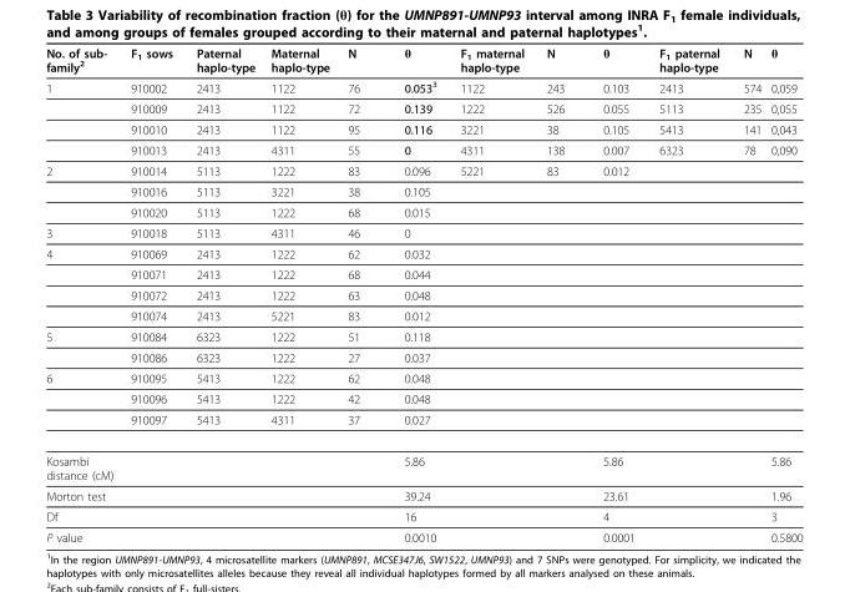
<table><thead><tr><td>No. of sub- family2</td><td>F1 sows</td><td>Paternal haplo-type</td><td>Maternal haplo-type</td><td>N</td><td>θ</td><td>F1 maternal haplo-type</td><td>N</td><td>θ</td><td>F1 paternal haplo-type</td><td>N</td><td>θ</td></tr></thead><tbody><tr><td rowspan="4">1</td><td>910002</td><td>2413</td><td>1122</td><td>76</td><td>0.0533</td><td>1122</td><td>243</td><td>0.103</td><td>2413</td><td>574</td><td>0,059</td></tr><tr><td>910009</td><td>2413</td><td>1122</td><td>72</td><td>0.139</td><td>1222</td><td>526</td><td>0.055</td><td>5113</td><td>235</td><td>0,055</td></tr><tr><td>910010</td><td>2413</td><td>1122</td><td>95</td><td>0.116</td><td>3221</td><td>38</td><td>0.105</td><td>5413</td><td>141</td><td>0,043</td></tr><tr><td>910013</td><td>2413</td><td>4311</td><td>55</td><td>0</td><td>4311</td><td>138</td><td>0.007</td><td>6323</td><td>78</td><td>0,090</td></tr><tr><td rowspan="3">2</td><td>910014</td><td>5113</td><td>1222</td><td>83</td><td>0.096</td><td>5221</td><td>83</td><td>0.012</td><td></td><td></td><td></td></tr><tr><td>910016</td><td>5113</td><td>3221</td><td>38</td><td>0.105</td><td></td><td></td><td></td><td></td><td></td><td></td></tr><tr><td>910020</td><td>5113</td><td>1222</td><td>68</td><td>0.015</td><td></td><td></td><td></td><td></td><td></td><td></td></tr><tr><td>3</td><td>910018</td><td>5113</td><td>4311</td><td>46</td><td>0</td><td></td><td></td><td></td><td></td><td></td><td></td></tr><tr><td rowspan="4">4</td><td>910069</td><td>2413</td><td>1222</td><td>62</td><td>0.032</td><td></td><td></td><td></td><td></td><td></td><td></td></tr><tr><td>910071</td><td>2413</td><td>1222</td><td>68</td><td>0.044</td><td></td><td></td><td></td><td></td><td></td><td></td></tr><tr><td>910072</td><td>2413</td><td>1222</td><td>63</td><td>0.048</td><td></td><td></td><td></td><td></td><td></td><td></td></tr><tr><td>910074</td><td>2413</td><td>5221</td><td>83</td><td>0.012</td><td></td><td></td><td></td><td></td><td></td><td></td></tr><tr><td rowspan="2">5</td><td>910084</td><td>6323</td><td>1222</td><td>51</td><td>0.118</td><td></td><td></td><td></td><td></td><td></td><td></td></tr><tr><td>910086</td><td>6323</td><td>1222</td><td>27</td><td>0.037</td><td></td><td></td><td></td><td></td><td></td><td></td></tr><tr><td rowspan="3">6</td><td>910095</td><td>5413</td><td>1222</td><td>62</td><td>0.048</td><td></td><td></td><td></td><td></td><td></td><td></td></tr><tr><td>910096</td><td>5413</td><td>1222</td><td>42</td><td>0.048</td><td></td><td></td><td></td><td></td><td></td><td></td></tr><tr><td>910097</td><td>5413</td><td>4311</td><td>37</td><td>0.027</td><td></td><td></td><td></td><td></td><td></td><td></td></tr><tr><td>Kosambi distance (cM)</td><td></td><td></td><td></td><td></td><td>5.86</td><td></td><td></td><td>5.86</td><td></td><td></td><td>5.86</td></tr><tr><td>Morton test</td><td></td><td></td><td></td><td></td><td>39.24</td><td></td><td></td><td>23.61</td><td></td><td></td><td>1.96</td></tr><tr><td>Df</td><td></td><td></td><td></td><td></td><td>16</td><td></td><td></td><td>4</td><td></td><td></td><td>3</td></tr><tr><td>P value</td><td></td><td></td><td></td><td></td><td>0.0010</td><td></td><td></td><td>0.0001</td><td></td><td></td><td>0.5800</td></tr></tbody></table>